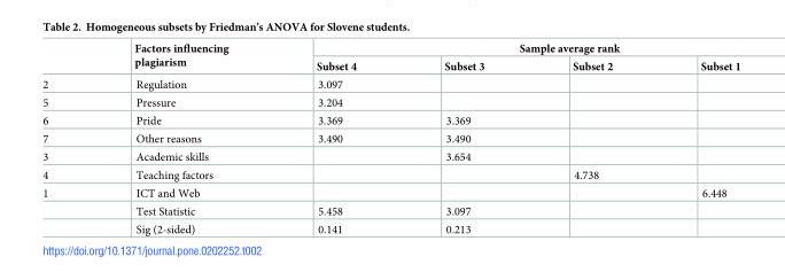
<table><thead><tr><td rowspan="2"></td><td rowspan="2">Factors influencing plagiarism</td><td colspan="4">Sample average rank</td></tr><tr><td>Subset 4</td><td>Subset 3</td><td>Subset 2</td><td>Subset 1</td></tr></thead><tbody><tr><td>2</td><td>Regulation</td><td>3.097</td><td></td><td></td><td></td></tr><tr><td>5</td><td>Pressure</td><td>3.204</td><td></td><td></td><td></td></tr><tr><td>6</td><td>Pride</td><td>3.369</td><td>3.369</td><td></td><td></td></tr><tr><td>7</td><td>Other reasons</td><td>3.490</td><td>3.490</td><td></td><td></td></tr><tr><td>3</td><td>Academic skills</td><td></td><td>3.654</td><td></td><td></td></tr><tr><td>4</td><td>Teaching factors</td><td></td><td></td><td>4.738</td><td></td></tr><tr><td rowspan="3">1</td><td>ICT and Web</td><td></td><td></td><td></td><td>6.448</td></tr><tr><td>Test Statistic</td><td>5.458</td><td>3.097</td><td></td><td></td></tr><tr><td>Sig (2-sided)</td><td>0.141</td><td>0.213</td><td></td><td></td></tr></tbody></table>